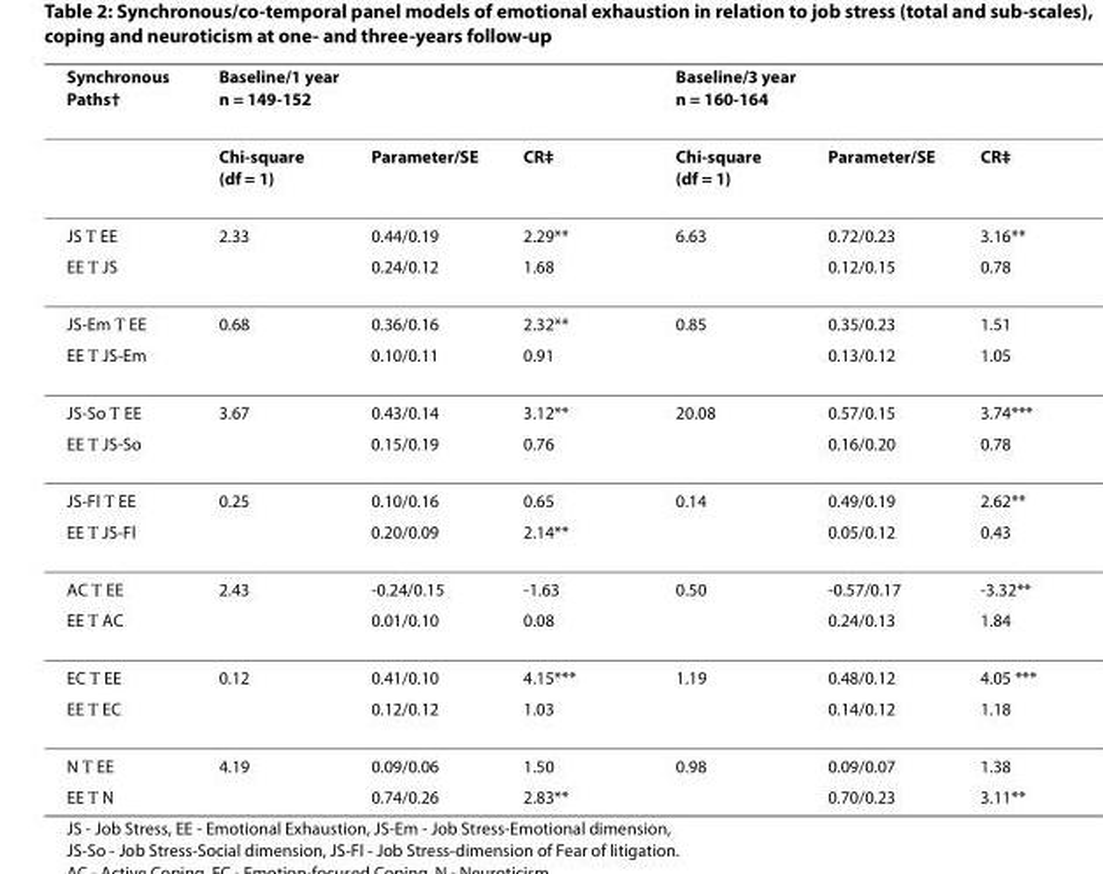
<table><thead><tr><td rowspan="2">Synchronous Paths†</td><td colspan="3">Baseline/1 year n = 149-152</td><td colspan="3">Baseline/3 year n = 160-164</td></tr><tr><td>Chi-square (df = 1)</td><td>Parameter/SE</td><td>CR‡</td><td>Chi-square (df = 1)</td><td>Parameter/SE</td><td>CR‡</td></tr></thead><tbody><tr><td>JS → EE</td><td>2.33</td><td>0.44/0.19</td><td>2.29**</td><td>6.63</td><td>0.72/0.23</td><td>3.16**</td></tr><tr><td>EE → JS</td><td></td><td>0.24/0.12</td><td>1.68</td><td></td><td>0.12/0.15</td><td>0.78</td></tr><tr><td>JS-Em → EE</td><td>0.68</td><td>0.36/0.16</td><td>2.32**</td><td>0.85</td><td>0.35/0.23</td><td>1.51</td></tr><tr><td>EE → JS-Em</td><td></td><td>0.10/0.11</td><td>0.91</td><td></td><td>0.13/0.12</td><td>1.05</td></tr><tr><td>JS-So → EE</td><td>3.67</td><td>0.43/0.14</td><td>3.12**</td><td>20.08</td><td>0.57/0.15</td><td>3.74***</td></tr><tr><td>EE → JS-So</td><td></td><td>0.15/0.19</td><td>0.76</td><td></td><td>0.16/0.20</td><td>0.78</td></tr><tr><td>JS-Fl → EE</td><td>0.25</td><td>0.10/0.16</td><td>0.65</td><td>0.14</td><td>0.49/0.19</td><td>2.62**</td></tr><tr><td>EE → JS-Fl</td><td></td><td>0.20/0.09</td><td>2.14**</td><td></td><td>0.05/0.12</td><td>0.43</td></tr><tr><td>AC → EE</td><td>2.43</td><td>-0.24/0.15</td><td>-1.63</td><td>0.50</td><td>-0.57/0.17</td><td>-3.32**</td></tr><tr><td>EE → AC</td><td></td><td>0.01/0.10</td><td>0.08</td><td></td><td>0.24/0.13</td><td>1.84</td></tr><tr><td>EC → EE</td><td>0.12</td><td>0.41/0.10</td><td>4.15***</td><td>1.19</td><td>0.48/0.12</td><td>4.05 ***</td></tr><tr><td>EE → EC</td><td></td><td>0.12/0.12</td><td>1.03</td><td></td><td>0.14/0.12</td><td>1.18</td></tr><tr><td>N → EE</td><td>4.19</td><td>0.09/0.06</td><td>1.50</td><td>0.98</td><td>0.09/0.07</td><td>1.38</td></tr><tr><td>EE → N</td><td></td><td>0.74/0.26</td><td>2.83**</td><td></td><td>0.70/0.23</td><td>3.11**</td></tr></tbody></table>